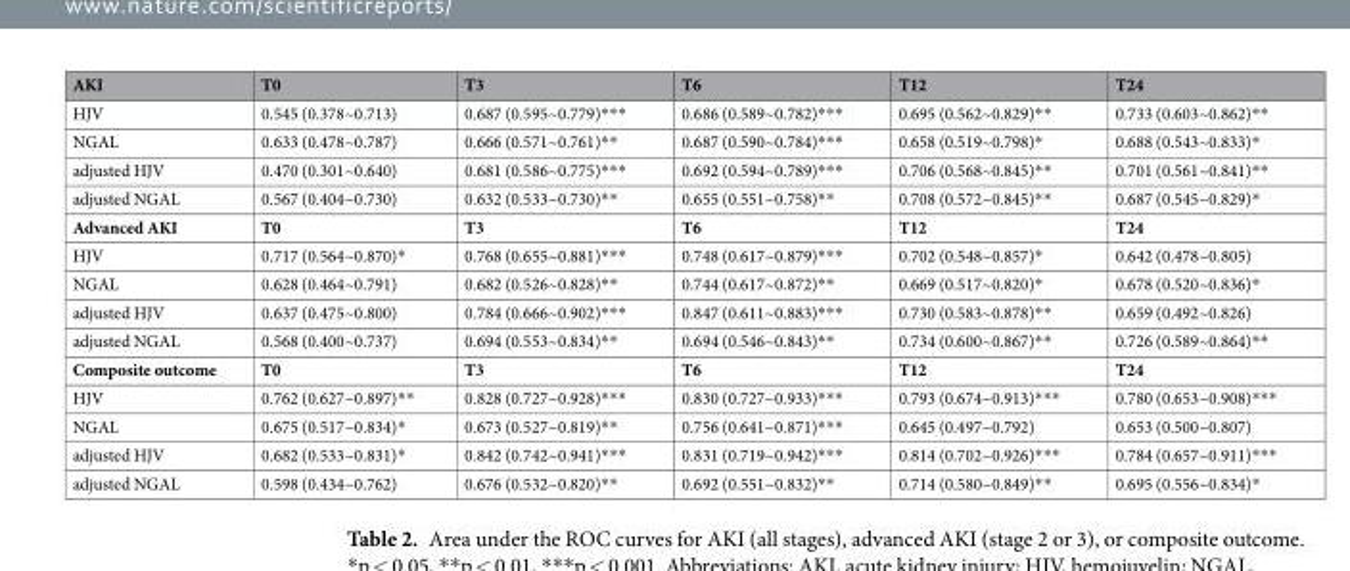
<table><thead><tr><td>AKI</td><td>T0</td><td>T3</td><td>T6</td><td>T12</td><td>T24</td></tr></thead><tbody><tr><td>HJV</td><td>0.545 (0.378~0.713)</td><td>0.687 (0.595~0.779)***</td><td>0.686 (0.589~0.782)***</td><td>0.695 (0.562~0.829)**</td><td>0.733 (0.603~0.862)**</td></tr><tr><td>NGAL</td><td>0.633 (0.478~0.787)</td><td>0.666 (0.571~0.761)**</td><td>0.687 (0.590~0.784)***</td><td>0.658 (0.519~0.798)*</td><td>0.688 (0.543~0.833)*</td></tr><tr><td>adjusted HJV</td><td>0.470 (0.301~0.640)</td><td>0.681 (0.586~0.775)***</td><td>0.692 (0.594~0.789)***</td><td>0.706 (0.568~0.845)**</td><td>0.701 (0.561~0.841)**</td></tr><tr><td>adjusted NGAL</td><td>0.567 (0.404~0.730)</td><td>0.632 (0.533~0.730)**</td><td>0.655 (0.551~0.758)**</td><td>0.708 (0.572~0.845)**</td><td>0.687 (0.545~0.829)*</td></tr><tr><td>Advanced AKI</td><td>T0</td><td>T3</td><td>T6</td><td>T12</td><td>T24</td></tr><tr><td>HJV</td><td>0.717 (0.564~0.870)*</td><td>0.768 (0.655~0.881)***</td><td>0.748 (0.617~0.879)***</td><td>0.702 (0.548~0.857)*</td><td>0.642 (0.478~0.805)</td></tr><tr><td>NGAL</td><td>0.628 (0.464~0.791)</td><td>0.682 (0.526~0.828)**</td><td>0.744 (0.617~0.872)**</td><td>0.669 (0.517~0.820)*</td><td>0.678 (0.520~0.836)*</td></tr><tr><td>adjusted HJV</td><td>0.637 (0.475~0.800)</td><td>0.784 (0.666~0.902)***</td><td>0.847 (0.611~0.883)***</td><td>0.730 (0.583~0.878)**</td><td>0.659 (0.492~0.826)</td></tr><tr><td>adjusted NGAL</td><td>0.568 (0.400~0.737)</td><td>0.694 (0.553~0.834)**</td><td>0.694 (0.546~0.843)**</td><td>0.734 (0.600~0.867)**</td><td>0.726 (0.589~0.864)**</td></tr><tr><td>Composite outcome</td><td>T0</td><td>T3</td><td>T6</td><td>T12</td><td>T24</td></tr><tr><td>HJV</td><td>0.762 (0.627~0.897)**</td><td>0.828 (0.727~0.928)***</td><td>0.830 (0.727~0.933)***</td><td>0.793 (0.674~0.913)***</td><td>0.780 (0.653~0.908)***</td></tr><tr><td>NGAL</td><td>0.675 (0.517~0.834)*</td><td>0.673 (0.527~0.819)**</td><td>0.756 (0.641~0.871)***</td><td>0.645 (0.497~0.792)</td><td>0.653 (0.500~0.807)</td></tr><tr><td>adjusted HJV</td><td>0.682 (0.533~0.831)*</td><td>0.842 (0.742~0.941)***</td><td>0.831 (0.719~0.942)***</td><td>0.814 (0.702~0.926)***</td><td>0.784 (0.657~0.911)***</td></tr><tr><td>adjusted NGAL</td><td>0.598 (0.434~0.762)</td><td>0.676 (0.532~0.820)**</td><td>0.692 (0.551~0.832)**</td><td>0.714 (0.580~0.849)**</td><td>0.695 (0.556~0.834)*</td></tr></tbody></table>